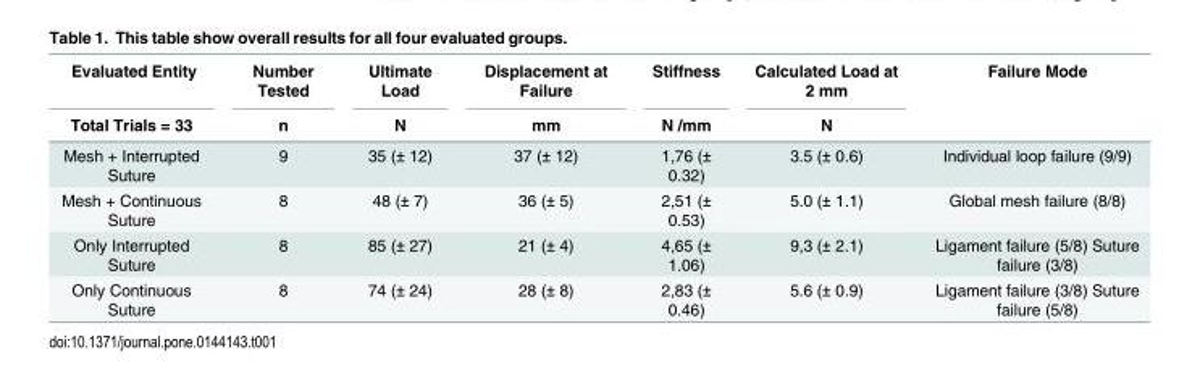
<table><thead><tr><td rowspan="2">Evaluated Entity Total Trials = 33</td><td rowspan="2">Number Tested n</td><td rowspan="2">Ultimate Load N</td><td rowspan="2">Displacement at Failure mm</td><td rowspan="2">Stiffness N /mm</td><td rowspan="2">Calculated Load at 2 mm N</td><td rowspan="2">Failure Mode</td></tr><tr></tr></thead><tbody><tr><td>Mesh + Interrupted Suture</td><td>9</td><td>35 (± 12)</td><td>37 (± 12)</td><td>1,76 (± 0.32)</td><td>3.5 (± 0.6)</td><td>Individual loop failure (9/9)</td></tr><tr><td>Mesh + Continuous Suture</td><td>8</td><td>48 (± 7)</td><td>36 (± 5)</td><td>2,51 (± 0.53)</td><td>5.0 (± 1.1)</td><td>Global mesh failure (8/8)</td></tr><tr><td>Only Interrupted Suture</td><td>8</td><td>85 (± 27)</td><td>21 (± 4)</td><td>4,65 (± 1.06)</td><td>9,3 (± 2.1)</td><td>Ligament failure (5/8) Suture failure (3/8)</td></tr><tr><td>Only Continuous Suture</td><td>8</td><td>74 (± 24)</td><td>28 (± 8)</td><td>2,83 (± 0.46)</td><td>5.6 (± 0.9)</td><td>Ligament failure (3/8) Suture failure (5/8)</td></tr></tbody></table>